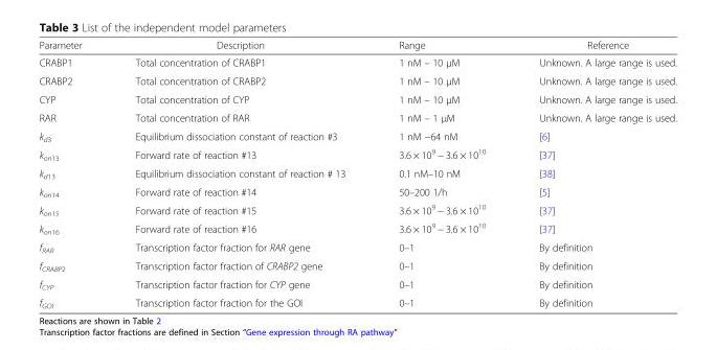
<table><thead><tr><td>Parameter</td><td>Description</td><td>Range</td><td>Reference</td></tr></thead><tbody><tr><td>CRABP1</td><td>Total concentration of CRABP1</td><td>1 nM – 10 μM</td><td>Unknown. A large range is used.</td></tr><tr><td>CRABP2</td><td>Total concentration of CRABP2</td><td>1 nM – 10 μM</td><td>Unknown. A large range is used.</td></tr><tr><td>CYP</td><td>Total concentration of CYP</td><td>1 nM – 10 μM</td><td>Unknown. A large range is used.</td></tr><tr><td>RAR</td><td>Total concentration of RAR</td><td>1 nM – 1 μM</td><td>Unknown. A large range is used.</td></tr><tr><td>k<sub>d3</sub></td><td>Equilibrium dissociation constant of reaction #3</td><td>1 nM −64 nM</td><td>[6]</td></tr><tr><td>k<sub>on13</sub></td><td>Forward rate of reaction #13</td><td>3.6 × 10<sup>9</sup> − 3.6 × 10<sup>10</sup></td><td>[37]</td></tr><tr><td>k<sub>d13</sub></td><td>Equilibrium dissociation constant of reaction # 13</td><td>0.1 nM–10 nM</td><td>[38]</td></tr><tr><td>k<sub>on14</sub></td><td>Forward rate of reaction #14</td><td>50–200 1/h</td><td>[5]</td></tr><tr><td>k<sub>on15</sub></td><td>Forward rate of reaction #15</td><td>3.6 × 10<sup>9</sup> − 3.6 × 10<sup>10</sup></td><td>[37]</td></tr><tr><td>k<sub>on16</sub></td><td>Forward rate of reaction #16</td><td>3.6 × 10<sup>9</sup> − 3.6 × 10<sup>10</sup></td><td>[37]</td></tr><tr><td>f<sub>RAR</sub></td><td>Transcription factor fraction for RAR gene</td><td>0–1</td><td>By definition</td></tr><tr><td>f<sub>CRABP2</sub></td><td>Transcription factor fraction of CRABP2 gene</td><td>0–1</td><td>By definition</td></tr><tr><td>f<sub>CYP</sub></td><td>Transcription factor fraction for CYP gene</td><td>0–1</td><td>By definition</td></tr><tr><td>f<sub>GOI</sub></td><td>Transcription factor fraction for the GOI</td><td>0–1</td><td>By definition</td></tr></tbody></table>